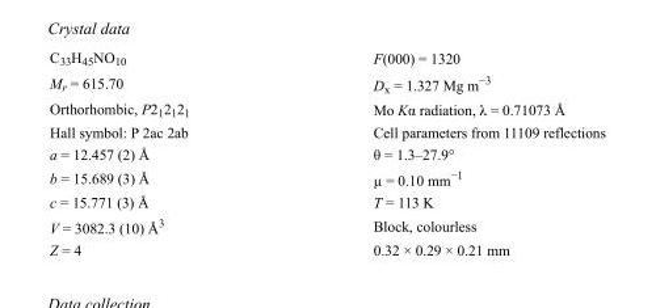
<table><tbody><tr><td>C<sub>33</sub>H<sub>45</sub>NO<sub>10</sub></td><td>F(000) = 1320</td></tr><tr><td>M<sub>r</sub> = 615.70</td><td>D<sub>x</sub> = 1.327 Mg m<sup>−3</sup></td></tr><tr><td>Orthorhombic, P2<sub>1</sub>2<sub>1</sub>2<sub>1</sub></td><td>Mo Kα radiation, λ = 0.71073 Å</td></tr><tr><td>Hall symbol: P 2ac 2ab</td><td>Cell parameters from 11109 reflections</td></tr><tr><td>a = 12.457 (2) Å</td><td>θ = 1.3–27.9°</td></tr><tr><td>b = 15.689 (3) Å</td><td>µ = 0.10 mm<sup>−1</sup></td></tr><tr><td>c = 15.771 (3) Å</td><td>T = 113 K</td></tr><tr><td>V = 3082.3 (10) Å<sup>3</sup></td><td>Block, colourless</td></tr><tr><td>Z = 4</td><td>0.32 × 0.29 × 0.21 mm</td></tr></tbody></table>